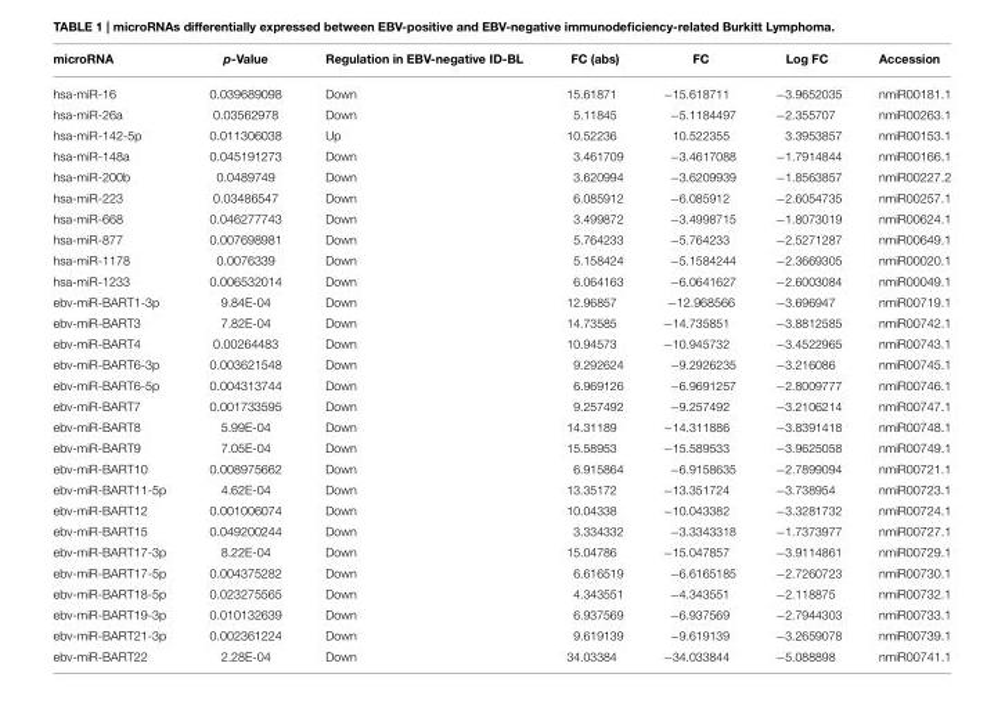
<table><thead><tr><td>microRNA</td><td>p-Value</td><td>Regulation in EBV-negative ID-BL</td><td>FC (abs)</td><td>FC</td><td>Log FC</td><td>Accession</td></tr></thead><tbody><tr><td>hsa-miR-16</td><td>0.039689098</td><td>Down</td><td>15.61871</td><td>−15.618711</td><td>−3.9652035</td><td>nmiR00181.1</td></tr><tr><td>hsa-miR-26a</td><td>0.03562978</td><td>Down</td><td>5.11845</td><td>−5.1184497</td><td>−2.355707</td><td>nmiR00263.1</td></tr><tr><td>hsa-miR-142-5p</td><td>0.011306038</td><td>Up</td><td>10.52236</td><td>10.522355</td><td>3.3953857</td><td>nmiR00153.1</td></tr><tr><td>hsa-miR-148a</td><td>0.045191273</td><td>Down</td><td>3.461709</td><td>−3.4617088</td><td>−1.7914844</td><td>nmiR00166.1</td></tr><tr><td>hsa-miR-200b</td><td>0.0489749</td><td>Down</td><td>3.620994</td><td>−3.6209939</td><td>−1.8563857</td><td>nmiR00227.2</td></tr><tr><td>hsa-miR-223</td><td>0.03486547</td><td>Down</td><td>6.085912</td><td>−6.085912</td><td>−2.6054735</td><td>nmiR00257.1</td></tr><tr><td>hsa-miR-668</td><td>0.046277743</td><td>Down</td><td>3.499872</td><td>−3.4998715</td><td>−1.8073019</td><td>nmiR00624.1</td></tr><tr><td>hsa-miR-877</td><td>0.007698981</td><td>Down</td><td>5.764233</td><td>−5.764233</td><td>−2.5271287</td><td>nmiR00649.1</td></tr><tr><td>hsa-miR-1178</td><td>0.0076339</td><td>Down</td><td>5.158424</td><td>−5.1584244</td><td>−2.3669305</td><td>nmiR00020.1</td></tr><tr><td>hsa-miR-1233</td><td>0.006532014</td><td>Down</td><td>6.064163</td><td>−6.0641627</td><td>−2.6003084</td><td>nmiR00049.1</td></tr><tr><td>ebv-miR-BART1-3p</td><td>9.84E-04</td><td>Down</td><td>12.96857</td><td>−12.968566</td><td>−3.696947</td><td>nmiR00719.1</td></tr><tr><td>ebv-miR-BART3</td><td>7.82E-04</td><td>Down</td><td>14.73585</td><td>−14.735851</td><td>−3.8812585</td><td>nmiR00742.1</td></tr><tr><td>ebv-miR-BART4</td><td>0.00264483</td><td>Down</td><td>10.94573</td><td>−10.945732</td><td>−3.4522965</td><td>nmiR00743.1</td></tr><tr><td>ebv-miR-BART6-3p</td><td>0.003621548</td><td>Down</td><td>9.292624</td><td>−9.2926235</td><td>−3.216086</td><td>nmiR00745.1</td></tr><tr><td>ebv-miR-BART6-5p</td><td>0.004313744</td><td>Down</td><td>6.969126</td><td>−6.9691257</td><td>−2.8009777</td><td>nmiR00746.1</td></tr><tr><td>ebv-miR-BART7</td><td>0.001733595</td><td>Down</td><td>9.257492</td><td>−9.257492</td><td>−3.2106214</td><td>nmiR00747.1</td></tr><tr><td>ebv-miR-BART8</td><td>5.99E-04</td><td>Down</td><td>14.31189</td><td>−14.311886</td><td>−3.8391418</td><td>nmiR00748.1</td></tr><tr><td>ebv-miR-BART9</td><td>7.05E-04</td><td>Down</td><td>15.58953</td><td>−15.589533</td><td>−3.9625058</td><td>nmiR00749.1</td></tr><tr><td>ebv-miR-BART10</td><td>0.008975662</td><td>Down</td><td>6.915864</td><td>−6.9158635</td><td>−2.7899094</td><td>nmiR00721.1</td></tr><tr><td>ebv-miR-BART11-5p</td><td>4.62E-04</td><td>Down</td><td>13.35172</td><td>−13.351724</td><td>−3.738954</td><td>nmiR00723.1</td></tr><tr><td>ebv-miR-BART12</td><td>0.001006074</td><td>Down</td><td>10.04338</td><td>−10.043382</td><td>−3.3281732</td><td>nmiR00724.1</td></tr><tr><td>ebv-miR-BART15</td><td>0.049200244</td><td>Down</td><td>3.334332</td><td>−3.3343318</td><td>−1.7373977</td><td>nmiR00727.1</td></tr><tr><td>ebv-miR-BART17-3p</td><td>8.22E-04</td><td>Down</td><td>15.04786</td><td>−15.047857</td><td>−3.9114861</td><td>nmiR00729.1</td></tr><tr><td>ebv-miR-BART17-5p</td><td>0.004375282</td><td>Down</td><td>6.616519</td><td>−6.6165185</td><td>−2.7260723</td><td>nmiR00730.1</td></tr><tr><td>ebv-miR-BART18-5p</td><td>0.023275565</td><td>Down</td><td>4.343551</td><td>−4.343551</td><td>−2.118875</td><td>nmiR00732.1</td></tr><tr><td>ebv-miR-BART19-3p</td><td>0.010132639</td><td>Down</td><td>6.937569</td><td>−6.937569</td><td>−2.7944303</td><td>nmiR00733.1</td></tr><tr><td>ebv-miR-BART21-3p</td><td>0.002361224</td><td>Down</td><td>9.619139</td><td>−9.619139</td><td>−3.2659078</td><td>nmiR00739.1</td></tr><tr><td>ebv-miR-BART22</td><td>2.28E-04</td><td>Down</td><td>34.03384</td><td>−34.033844</td><td>−5.088898</td><td>nmiR00741.1</td></tr></tbody></table>